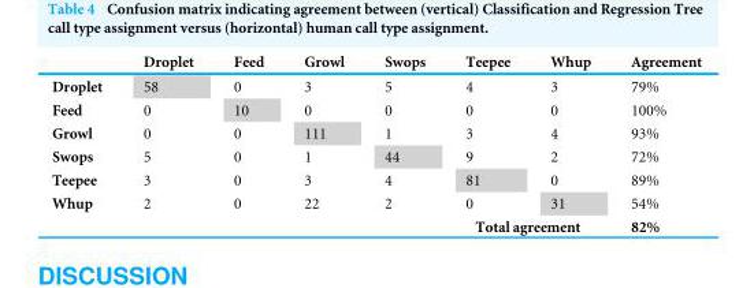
<table><thead><tr><td></td><td>Droplet</td><td>Feed</td><td>Growl</td><td>Swops</td><td>Teepee</td><td>Whup</td><td>Agreement</td></tr></thead><tbody><tr><td>Droplet</td><td>58</td><td>0</td><td>3</td><td>5</td><td>4</td><td>3</td><td>79%</td></tr><tr><td>Feed</td><td>0</td><td>10</td><td>0</td><td>0</td><td>0</td><td>0</td><td>100%</td></tr><tr><td>Growl</td><td>0</td><td>0</td><td>111</td><td>1</td><td>3</td><td>4</td><td>93%</td></tr><tr><td>Swops</td><td>5</td><td>0</td><td>1</td><td>44</td><td>9</td><td>2</td><td>72%</td></tr><tr><td>Teepee</td><td>3</td><td>0</td><td>3</td><td>4</td><td>81</td><td>0</td><td>89%</td></tr><tr><td rowspan="2">Whup</td><td>2</td><td>0</td><td>22</td><td>2</td><td>0</td><td>31</td><td>54%</td></tr><tr><td></td><td></td><td></td><td></td><td colspan="2">Total agreement</td><td>82%</td></tr></tbody></table>